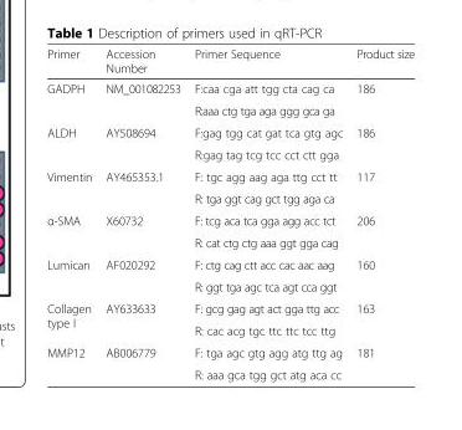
<table><thead><tr><td>Primer</td><td>Accession Number</td><td>Primer Sequence</td><td>Product size</td></tr></thead><tbody><tr><td rowspan="2">GADPH</td><td rowspan="2">NM_001082253</td><td>F:caa cga att tgg cta cag ca</td><td rowspan="2">186</td></tr><tr><td>R:aaa ctg tga aga ggg gca ga</td></tr><tr><td rowspan="2">ALDH</td><td rowspan="2">AY508694</td><td>F:gag tgg cat gat tca gtg agc</td><td rowspan="2">186</td></tr><tr><td>R:gag tag tcg tcc cct ctt gga</td></tr><tr><td rowspan="2">Vimentin</td><td rowspan="2">AY465353.1</td><td>F: tgc agg aag aga ttg cct tt</td><td rowspan="2">117</td></tr><tr><td>R: tga ggt cag gct tgg aga ca</td></tr><tr><td rowspan="2">α-SMA</td><td rowspan="2">X60732</td><td>F: tcg aca tca gga agg acc tct</td><td rowspan="2">206</td></tr><tr><td>R: cat ctg ctg aaa ggt gga cag</td></tr><tr><td rowspan="2">Lumican</td><td rowspan="2">AF020292</td><td>F: ctg cag ctt acc cac aac aag</td><td rowspan="2">160</td></tr><tr><td>R: ggt tga agc tca agt cca ggt</td></tr><tr><td rowspan="2">Collagen type I</td><td rowspan="2">AY633633</td><td>F: gcg gag agt act gga ttg acc</td><td rowspan="2">163</td></tr><tr><td>R: cac acg tgc ttc ttc tcc ttg</td></tr><tr><td rowspan="2">MMP12</td><td rowspan="2">AB006779</td><td>F: tga agc gtg agg atg ttg ag</td><td rowspan="2">181</td></tr><tr><td>R: aaa gca tgg gct atg aca cc</td></tr></tbody></table>